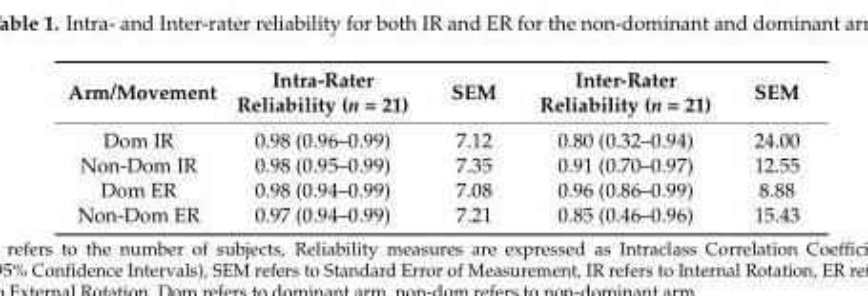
<table><thead><tr><td>Arm/Movement</td><td>Intra-Rater Reliability (n = 21)</td><td>SEM</td><td>Inter-Rater Reliability (n = 21)</td><td>SEM</td></tr></thead><tbody><tr><td>Dom IR</td><td>0.98 (0.96–0.99)</td><td>7.12</td><td>0.80 (0.32–0.94)</td><td>24.00</td></tr><tr><td>Non-Dom IR</td><td>0.98 (0.95–0.99)</td><td>7.35</td><td>0.91 (0.70–0.97)</td><td>12.55</td></tr><tr><td>Dom ER</td><td>0.98 (0.94–0.99)</td><td>7.08</td><td>0.96 (0.86–0.99)</td><td>8.88</td></tr><tr><td>Non-Dom ER</td><td>0.97 (0.94–0.99)</td><td>7.21</td><td>0.85 (0.46–0.96)</td><td>15.43</td></tr></tbody></table>